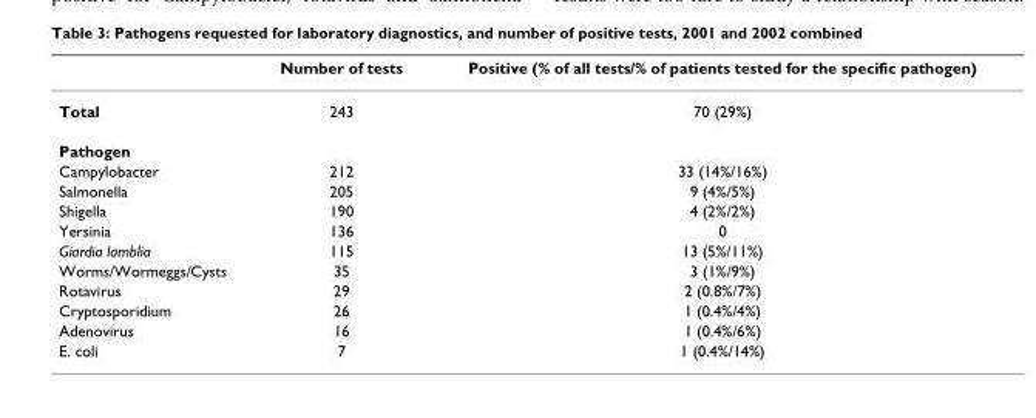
<table><thead><tr><td></td><td>Number of tests</td><td>Positive (% of all tests/% of patients tested for the specific pathogen)</td></tr></thead><tbody><tr><td>Total</td><td>243</td><td>70 (29%)</td></tr><tr><td colspan="3">Pathogen</td></tr><tr><td>Campylobacter</td><td>212</td><td>33 (14%/16%)</td></tr><tr><td>Salmonella</td><td>205</td><td>9 (4%/5%)</td></tr><tr><td>Shigella</td><td>190</td><td>4 (2%/2%)</td></tr><tr><td>Yersinia</td><td>136</td><td>0</td></tr><tr><td>Giardia lamblia</td><td>115</td><td>13 (5%/11%)</td></tr><tr><td>Worms/Wormeggs/Cysts</td><td>35</td><td>3 (1%/9%)</td></tr><tr><td>Rotavirus</td><td>29</td><td>2 (0.8%/7%)</td></tr><tr><td>Cryptosporidium</td><td>26</td><td>1 (0.4%/4%)</td></tr><tr><td>Adenovirus</td><td>16</td><td>1 (0.4%/6%)</td></tr><tr><td>E. coli</td><td>7</td><td>1 (0.4%/14%)</td></tr></tbody></table>